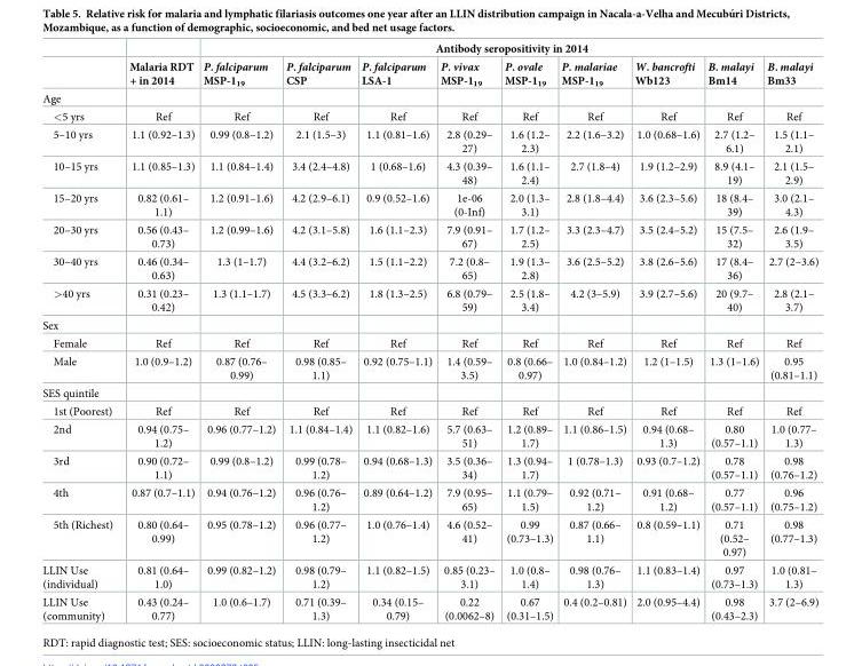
<table><thead><tr><td rowspan="2"></td><td rowspan="2">Malaria RDT + in 2014</td><td colspan="9">Antibody seropositivity in 2014</td></tr><tr><td>P. falciparum MSP-1<sub>19</sub></td><td>P. falciparum CSP</td><td>P. falciparum LSA-1</td><td>P. vivax MSP-1<sub>19</sub></td><td>P. ovale MSP-1<sub>19</sub></td><td>P. malariae MSP-1<sub>19</sub></td><td>W. bancrofti Wb123</td><td>B. malayi Bm14</td><td>B. malayi Bm33</td></tr></thead><tbody><tr><td colspan="11">Age</td></tr><tr><td>&lt;5 yrs</td><td>Ref</td><td>Ref</td><td>Ref</td><td>Ref</td><td>Ref</td><td>Ref</td><td>Ref</td><td>Ref</td><td>Ref</td><td>Ref</td></tr><tr><td>5–10 yrs</td><td>1.1 (0.92–1.3)</td><td>0.99 (0.8–1.2)</td><td>2.1 (1.5–3)</td><td>1.1 (0.81–1.6)</td><td>2.8 (0.29– 27)</td><td>1.6 (1.2– 2.3)</td><td>2.2 (1.6–3.2)</td><td>1.0 (0.68–1.6)</td><td>2.7 (1.2– 6.1)</td><td>1.5 (1.1– 2.1)</td></tr><tr><td>10–15 yrs</td><td>1.1 (0.85–1.3)</td><td>1.1 (0.84–1.4)</td><td>3.4 (2.4–4.8)</td><td>1 (0.68–1.6)</td><td>4.3 (0.39– 48)</td><td>1.6 (1.1– 2.4)</td><td>2.7 (1.8–4)</td><td>1.9 (1.2–2.9)</td><td>8.9 (4.1– 19)</td><td>2.1 (1.5– 2.9)</td></tr><tr><td>15–20 yrs</td><td>0.82 (0.61– 1.1)</td><td>1.2 (0.91–1.6)</td><td>4.2 (2.9–6.1)</td><td>0.9 (0.52–1.6)</td><td>1e-06 (0-Inf)</td><td>2.0 (1.3– 3.1)</td><td>2.8 (1.8–4.4)</td><td>3.6 (2.3–5.6)</td><td>18 (8.4– 39)</td><td>3.0 (2.1– 4.3)</td></tr><tr><td>20–30 yrs</td><td>0.56 (0.43– 0.73)</td><td>1.2 (0.99–1.6)</td><td>4.2 (3.1–5.8)</td><td>1.6 (1.1–2.3)</td><td>7.9 (0.91– 67)</td><td>1.7 (1.2– 2.5)</td><td>3.3 (2.3–4.7)</td><td>3.5 (2.4–5.2)</td><td>15 (7.5– 32)</td><td>2.6 (1.9– 3.5)</td></tr><tr><td>30–40 yrs</td><td>0.46 (0.34– 0.63)</td><td>1.3 (1–1.7)</td><td>4.4 (3.2–6.2)</td><td>1.5 (1.1–2.2)</td><td>7.2 (0.8– 65)</td><td>1.9 (1.3– 2.8)</td><td>3.6 (2.5–5.2)</td><td>3.8 (2.6–5.6)</td><td>17 (8.4– 36)</td><td>2.7 (2–3.6)</td></tr><tr><td>&gt;40 yrs</td><td>0.31 (0.23– 0.42)</td><td>1.3 (1.1–1.7)</td><td>4.5 (3.3–6.2)</td><td>1.8 (1.3–2.5)</td><td>6.8 (0.79– 59)</td><td>2.5 (1.8– 3.4)</td><td>4.2 (3–5.9)</td><td>3.9 (2.7–5.6)</td><td>20 (9.7– 40)</td><td>2.8 (2.1– 3.7)</td></tr><tr><td colspan="11">Sex</td></tr><tr><td>Female</td><td>Ref</td><td>Ref</td><td>Ref</td><td>Ref</td><td>Ref</td><td>Ref</td><td>Ref</td><td>Ref</td><td>Ref</td><td>Ref</td></tr><tr><td>Male</td><td>1.0 (0.9–1.2)</td><td>0.87 (0.76– 0.99)</td><td>0.98 (0.85– 1.1)</td><td>0.92 (0.75–1.1)</td><td>1.4 (0.59– 3.5)</td><td>0.8 (0.66– 0.97)</td><td>1.0 (0.84–1.2)</td><td>1.2 (1–1.5)</td><td>1.3 (1–1.6)</td><td>0.95 (0.81–1.1)</td></tr><tr><td colspan="11">SES quintile</td></tr><tr><td>1st (Poorest)</td><td>Ref</td><td>Ref</td><td>Ref</td><td>Ref</td><td>Ref</td><td>Ref</td><td>Ref</td><td>Ref</td><td>Ref</td><td>Ref</td></tr><tr><td>2nd</td><td>0.94 (0.75– 1.2)</td><td>0.96 (0.77–1.2)</td><td>1.1 (0.84–1.4)</td><td>1.1 (0.82–1.6)</td><td>5.7 (0.63– 51)</td><td>1.2 (0.89– 1.7)</td><td>1.1 (0.86–1.5)</td><td>0.94 (0.68– 1.3)</td><td>0.80 (0.57–1.1)</td><td>1.0 (0.77– 1.3)</td></tr><tr><td>3rd</td><td>0.90 (0.72– 1.1)</td><td>0.99 (0.8–1.2)</td><td>0.99 (0.78– 1.2)</td><td>0.94 (0.68–1.3)</td><td>3.5 (0.36– 34)</td><td>1.3 (0.94– 1.7)</td><td>1 (0.78–1.3)</td><td>0.93 (0.7–1.2)</td><td>0.78 (0.57–1.1)</td><td>0.98 (0.76–1.2)</td></tr><tr><td>4th</td><td>0.87 (0.7–1.1)</td><td>0.94 (0.76–1.2)</td><td>0.96 (0.76– 1.2)</td><td>0.89 (0.64–1.2)</td><td>7.9 (0.95– 65)</td><td>1.1 (0.79– 1.5)</td><td>0.92 (0.71– 1.2)</td><td>0.91 (0.68– 1.2)</td><td>0.77 (0.57–1.1)</td><td>0.96 (0.75–1.2)</td></tr><tr><td>5th (Richest)</td><td>0.80 (0.64– 0.99)</td><td>0.95 (0.78–1.2)</td><td>0.96 (0.77– 1.2)</td><td>1.0 (0.76–1.4)</td><td>4.6 (0.52– 41)</td><td>0.99 (0.73–1.3)</td><td>0.87 (0.66– 1.1)</td><td>0.8 (0.59–1.1)</td><td>0.71 (0.52– 0.97)</td><td>0.98 (0.77–1.3)</td></tr><tr><td>LLIN Use (individual)</td><td>0.81 (0.64– 1.0)</td><td>0.99 (0.82–1.2)</td><td>0.98 (0.79– 1.2)</td><td>1.1 (0.82–1.5)</td><td>0.85 (0.23– 3.1)</td><td>1.0 (0.8– 1.4)</td><td>0.98 (0.76– 1.3)</td><td>1.1 (0.83–1.4)</td><td>0.97 (0.73–1.3)</td><td>1.0 (0.81– 1.3)</td></tr><tr><td>LLIN Use (community)</td><td>0.43 (0.24– 0.77)</td><td>1.0 (0.6–1.7)</td><td>0.71 (0.39– 1.3)</td><td>0.34 (0.15– 0.79)</td><td>0.22 (0.0062–8)</td><td>0.67 (0.31–1.5)</td><td>0.4 (0.2–0.81)</td><td>2.0 (0.95–4.4)</td><td>0.98 (0.43–2.3)</td><td>3.7 (2–6.9)</td></tr></tbody></table>